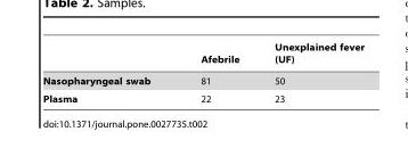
<table><thead><tr><td></td><td>Afebrile</td><td>Unexplained fever (UF)</td></tr></thead><tbody><tr><td>Nasopharyngeal swab</td><td>81</td><td>50</td></tr><tr><td>Plasma</td><td>22</td><td>23</td></tr></tbody></table>